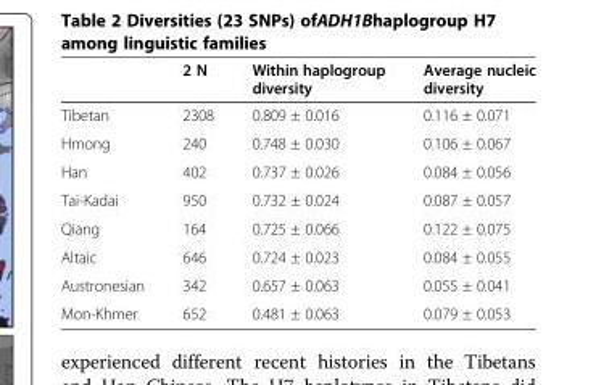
<table><thead><tr><td></td><td>2 N</td><td>Within haplogroup diversity</td><td>Average nucleic diversity</td></tr></thead><tbody><tr><td>Tibetan</td><td>2308</td><td>0.809 ± 0.016</td><td>0.116 ± 0.071</td></tr><tr><td>Hmong</td><td>240</td><td>0.748 ± 0.030</td><td>0.106 ± 0.067</td></tr><tr><td>Han</td><td>402</td><td>0.737 ± 0.026</td><td>0.084 ± 0.056</td></tr><tr><td>Tai-Kadai</td><td>950</td><td>0.732 ± 0.024</td><td>0.087 ± 0.057</td></tr><tr><td>Qiang</td><td>164</td><td>0.725 ± 0.066</td><td>0.122 ± 0.075</td></tr><tr><td>Altaic</td><td>646</td><td>0.724 ± 0.023</td><td>0.084 ± 0.055</td></tr><tr><td>Austronesian</td><td>342</td><td>0.657 ± 0.063</td><td>0.055 ± 0.041</td></tr><tr><td>Mon-Khmer</td><td>652</td><td>0.481 ± 0.063</td><td>0.079 ± 0.053</td></tr></tbody></table>